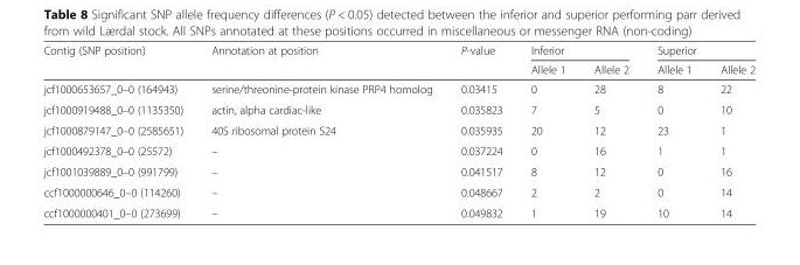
<table><thead><tr><td rowspan="2">Contig (SNP position)</td><td rowspan="2">Annotation at position</td><td rowspan="2">P-value</td><td colspan="2">Inferior</td><td colspan="2">Superior</td></tr><tr><td>Allele 1</td><td>Allele 2</td><td>Allele 1</td><td>Allele 2</td></tr></thead><tbody><tr><td>jcf1000653657_0–0 (164943)</td><td>serine/threonine-protein kinase PRP4 homolog</td><td>0.03415</td><td>0</td><td>28</td><td>8</td><td>22</td></tr><tr><td>jcf1000919488_0–0 (1135350)</td><td>actin, alpha cardiac-like</td><td>0.035823</td><td>7</td><td>5</td><td>0</td><td>10</td></tr><tr><td>jcf1000879147_0–0 (2585651)</td><td>40S ribosomal protein S24</td><td>0.035935</td><td>20</td><td>12</td><td>23</td><td>1</td></tr><tr><td>jcf1000492378_0–0 (25572)</td><td>–</td><td>0.037224</td><td>0</td><td>16</td><td>1</td><td>1</td></tr><tr><td>jcf1001039889_0–0 (991799)</td><td>–</td><td>0.041517</td><td>8</td><td>12</td><td>0</td><td>16</td></tr><tr><td>ccf1000000646_0–0 (114260)</td><td>–</td><td>0.048667</td><td>2</td><td>2</td><td>0</td><td>14</td></tr><tr><td>ccf1000000401_0–0 (273699)</td><td>–</td><td>0.049832</td><td>1</td><td>19</td><td>10</td><td>14</td></tr></tbody></table>